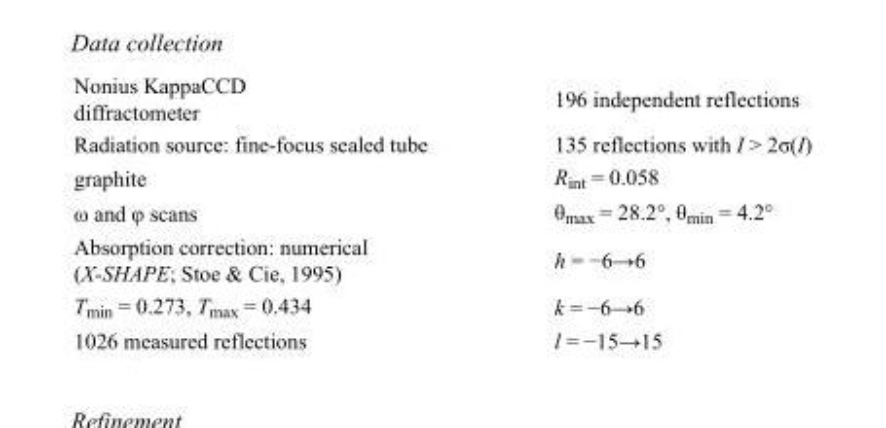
<table><tbody><tr><td>Nonius KappaCCD diffractometer</td><td>196 independent reflections</td></tr><tr><td>Radiation source: fine-focus sealed tube</td><td>135 reflections with I &gt; 2σ(I)</td></tr><tr><td>graphite</td><td>R<sub>int</sub> = 0.058</td></tr><tr><td>ω and φ scans</td><td>θ<sub>max</sub> = 28.2°, θ<sub>min</sub> = 4.2°</td></tr><tr><td>Absorption correction: numerical (X-SHAPE; Stoe &amp; Cie, 1995)</td><td>h = −6→6</td></tr><tr><td>T<sub>min</sub> = 0.273, T<sub>max</sub> = 0.434</td><td>k = −6→6</td></tr><tr><td>1026 measured reflections</td><td>l = −15→15</td></tr></tbody></table>